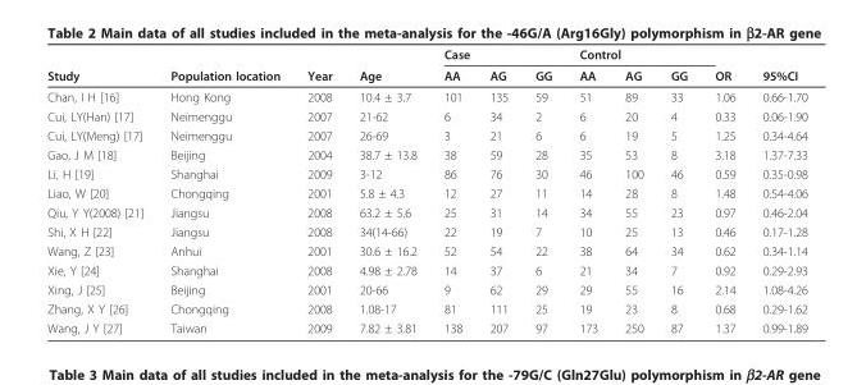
<table><thead><tr><td rowspan="2">Study</td><td rowspan="2">Population location</td><td rowspan="2">Year</td><td rowspan="2">Age</td><td colspan="3">Case</td><td colspan="3">Control</td><td rowspan="2">OR</td><td rowspan="2">95%CI</td></tr><tr><td>AA</td><td>AG</td><td>GG</td><td>AA</td><td>AG</td><td>GG</td></tr></thead><tbody><tr><td>Chan, I H [16]</td><td>Hong Kong</td><td>2008</td><td>10.4 ± 3.7</td><td>101</td><td>135</td><td>59</td><td>51</td><td>89</td><td>33</td><td>1.06</td><td>0.66-1.70</td></tr><tr><td>Cui, LY(Han) [17]</td><td>Neimenggu</td><td>2007</td><td>21-62</td><td>6</td><td>34</td><td>2</td><td>6</td><td>20</td><td>4</td><td>0.33</td><td>0.06-1.90</td></tr><tr><td>Cui, LY(Meng) [17]</td><td>Neimenggu</td><td>2007</td><td>26-69</td><td>3</td><td>21</td><td>6</td><td>6</td><td>19</td><td>5</td><td>1.25</td><td>0.34-4.64</td></tr><tr><td>Gao, J M [18]</td><td>Beijing</td><td>2004</td><td>38.7 ± 13.8</td><td>38</td><td>59</td><td>28</td><td>35</td><td>53</td><td>8</td><td>3.18</td><td>1.37-7.33</td></tr><tr><td>Li, H [19]</td><td>Shanghai</td><td>2009</td><td>3-12</td><td>86</td><td>76</td><td>30</td><td>46</td><td>100</td><td>46</td><td>0.59</td><td>0.35-0.98</td></tr><tr><td>Liao, W [20]</td><td>Chongqing</td><td>2001</td><td>5.8 ± 4.3</td><td>12</td><td>27</td><td>11</td><td>14</td><td>28</td><td>8</td><td>1.48</td><td>0.54-4.06</td></tr><tr><td>Qiu, Y Y(2008) [21]</td><td>Jiangsu</td><td>2008</td><td>63.2 ± 5.6</td><td>25</td><td>31</td><td>14</td><td>34</td><td>55</td><td>23</td><td>0.97</td><td>0.46-2.04</td></tr><tr><td>Shi, X H [22]</td><td>Jiangsu</td><td>2008</td><td>34(14-66)</td><td>22</td><td>19</td><td>7</td><td>10</td><td>25</td><td>13</td><td>0.46</td><td>0.17-1.28</td></tr><tr><td>Wang, Z [23]</td><td>Anhui</td><td>2001</td><td>30.6 ± 16.2</td><td>52</td><td>54</td><td>22</td><td>38</td><td>64</td><td>34</td><td>0.62</td><td>0.34-1.14</td></tr><tr><td>Xie, Y [24]</td><td>Shanghai</td><td>2008</td><td>4.98 ± 2.78</td><td>14</td><td>37</td><td>6</td><td>21</td><td>34</td><td>7</td><td>0.92</td><td>0.29-2.93</td></tr><tr><td>Xing, J [25]</td><td>Beijing</td><td>2001</td><td>20-66</td><td>9</td><td>62</td><td>29</td><td>29</td><td>55</td><td>16</td><td>2.14</td><td>1.08-4.26</td></tr><tr><td>Zhang, X Y [26]</td><td>Chongqing</td><td>2008</td><td>1.08-17</td><td>81</td><td>111</td><td>25</td><td>19</td><td>23</td><td>8</td><td>0.68</td><td>0.29-1.62</td></tr><tr><td>Wang, J Y [27]</td><td>Taiwan</td><td>2009</td><td>7.82 ± 3.81</td><td>138</td><td>207</td><td>97</td><td>173</td><td>250</td><td>87</td><td>1.37</td><td>0.99-1.89</td></tr></tbody></table>